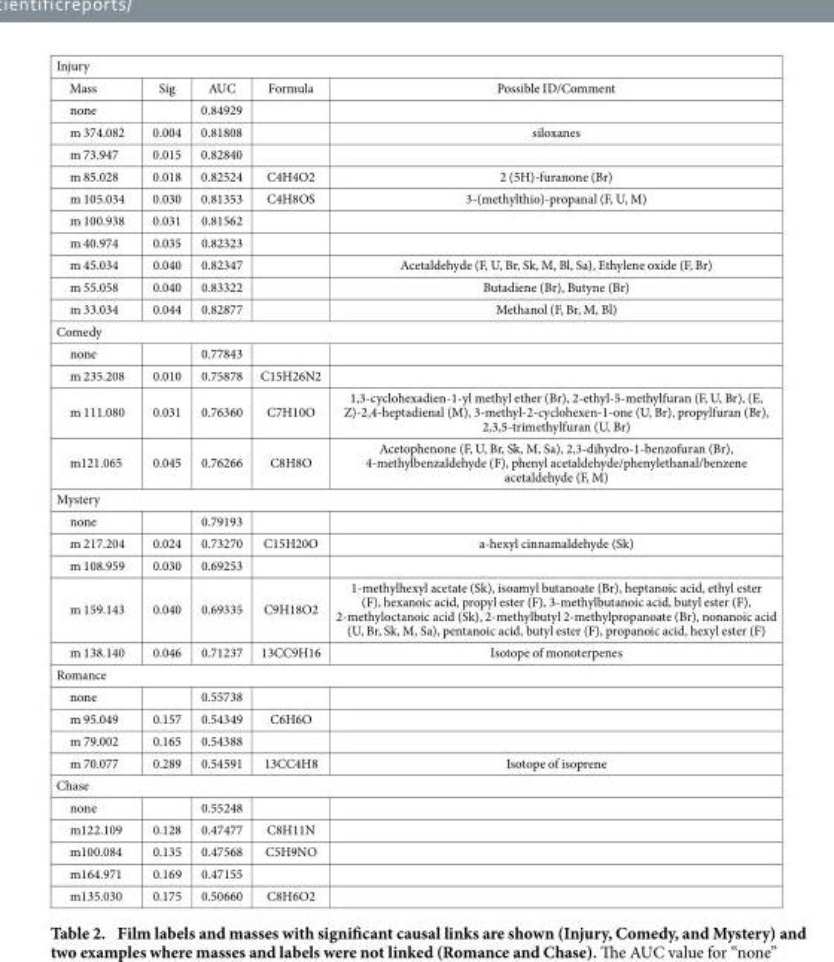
<table><tbody><tr><td colspan="5">Injury</td></tr><tr><td>Mass</td><td>Sig</td><td>AUC</td><td>Formula</td><td>Possible ID/Comment</td></tr><tr><td>none</td><td></td><td>0.84929</td><td></td><td></td></tr><tr><td>m 374.082</td><td>0.004</td><td>0.81808</td><td></td><td>siloxanes</td></tr><tr><td>m 73.947</td><td>0.015</td><td>0.82840</td><td></td><td></td></tr><tr><td>m 85.028</td><td>0.018</td><td>0.82524</td><td>C4H4O2</td><td>2 (5H)-furanone (Br)</td></tr><tr><td>m 105.034</td><td>0.030</td><td>0.81353</td><td>C4H8OS</td><td>3-(methylthio)-propanal (F, U, M)</td></tr><tr><td>m 100.938</td><td>0.031</td><td>0.81562</td><td></td><td></td></tr><tr><td>m 40.974</td><td>0.035</td><td>0.82323</td><td></td><td></td></tr><tr><td>m 45.034</td><td>0.040</td><td>0.82347</td><td></td><td>Acetaldehyde (F, U, Br, Sk, M, Bl, Sa), Ethylene oxide (F, Br)</td></tr><tr><td>m 55.058</td><td>0.040</td><td>0.83322</td><td></td><td>Butadiene (Br), Butyne (Br)</td></tr><tr><td>m 33.034</td><td>0.044</td><td>0.82877</td><td></td><td>Methanol (F, Br, M, Bl)</td></tr><tr><td colspan="5">Comedy</td></tr><tr><td>none</td><td></td><td>0.77843</td><td></td><td></td></tr><tr><td>m 235.208</td><td>0.010</td><td>0.75878</td><td>C15H26N2</td><td></td></tr><tr><td>m 111.080</td><td>0.031</td><td>0.76360</td><td>C7H10O</td><td>1,3-cyclohexadien-1-yl methyl ether (Br), 2-ethyl-5-methylfuran (F, U, Br), (E, Z)-2,4-heptadienal (M), 3-methyl-2-cyclohexen-1-one (U, Br), propylfuran (Br), 2,3,5-trimethylfuran (U, Br)</td></tr><tr><td>m121.065</td><td>0.045</td><td>0.76266</td><td>C8H8O</td><td>Acetophenone (F, U, Br, Sk, M, Sa), 2,3-dihydro-1-benzofuran (Br), 4-methylbenzaldehyde (F), phenyl acetaldehyde/phenylethanal/benzene acetaldehyde (F, M)</td></tr><tr><td colspan="5">Mystery</td></tr><tr><td>none</td><td></td><td>0.79193</td><td></td><td></td></tr><tr><td>m 217.204</td><td>0.024</td><td>0.73270</td><td>C15H20O</td><td>a-hexyl cinnamaldehyde (Sk)</td></tr><tr><td>m 108.959</td><td>0.030</td><td>0.69253</td><td></td><td></td></tr><tr><td>m 159.143</td><td>0.040</td><td>0.69335</td><td>C9H18O2</td><td>1-methylhexyl acetate (Sk), isoamyl butanoate (Br), heptanoic acid, ethyl ester (F), hexanoic acid, propyl ester (F), 3-methylbutanoic acid, butyl ester (F), 2-methyloctanoic acid (Sk), 2-methylbutyl 2-methylpropanoate (Br), nonanoic acid (U, Br, Sk, M, Sa), pentanoic acid, butyl ester (F), propanoic acid, hexyl ester (F)</td></tr><tr><td>m 138.140</td><td>0.046</td><td>0.71237</td><td>13CC9H16</td><td>Isotope of monoterpenes</td></tr><tr><td colspan="5">Romance</td></tr><tr><td>none</td><td></td><td>0.55738</td><td></td><td></td></tr><tr><td>m 95.049</td><td>0.157</td><td>0.54349</td><td>C6H6O</td><td></td></tr><tr><td>m 79.002</td><td>0.165</td><td>0.54388</td><td></td><td></td></tr><tr><td>m 70.077</td><td>0.289</td><td>0.54591</td><td>13CC4H8</td><td>Isotope of isoprene</td></tr><tr><td colspan="5">Chase</td></tr><tr><td>none</td><td></td><td>0.55248</td><td></td><td></td></tr><tr><td>m122.109</td><td>0.128</td><td>0.47477</td><td>C8H11N</td><td></td></tr><tr><td>m100.084</td><td>0.135</td><td>0.47568</td><td>C5H9NO</td><td></td></tr><tr><td>m164.971</td><td>0.169</td><td>0.47155</td><td></td><td></td></tr><tr><td>m135.030</td><td>0.175</td><td>0.50660</td><td>C8H6O2</td><td></td></tr></tbody></table>